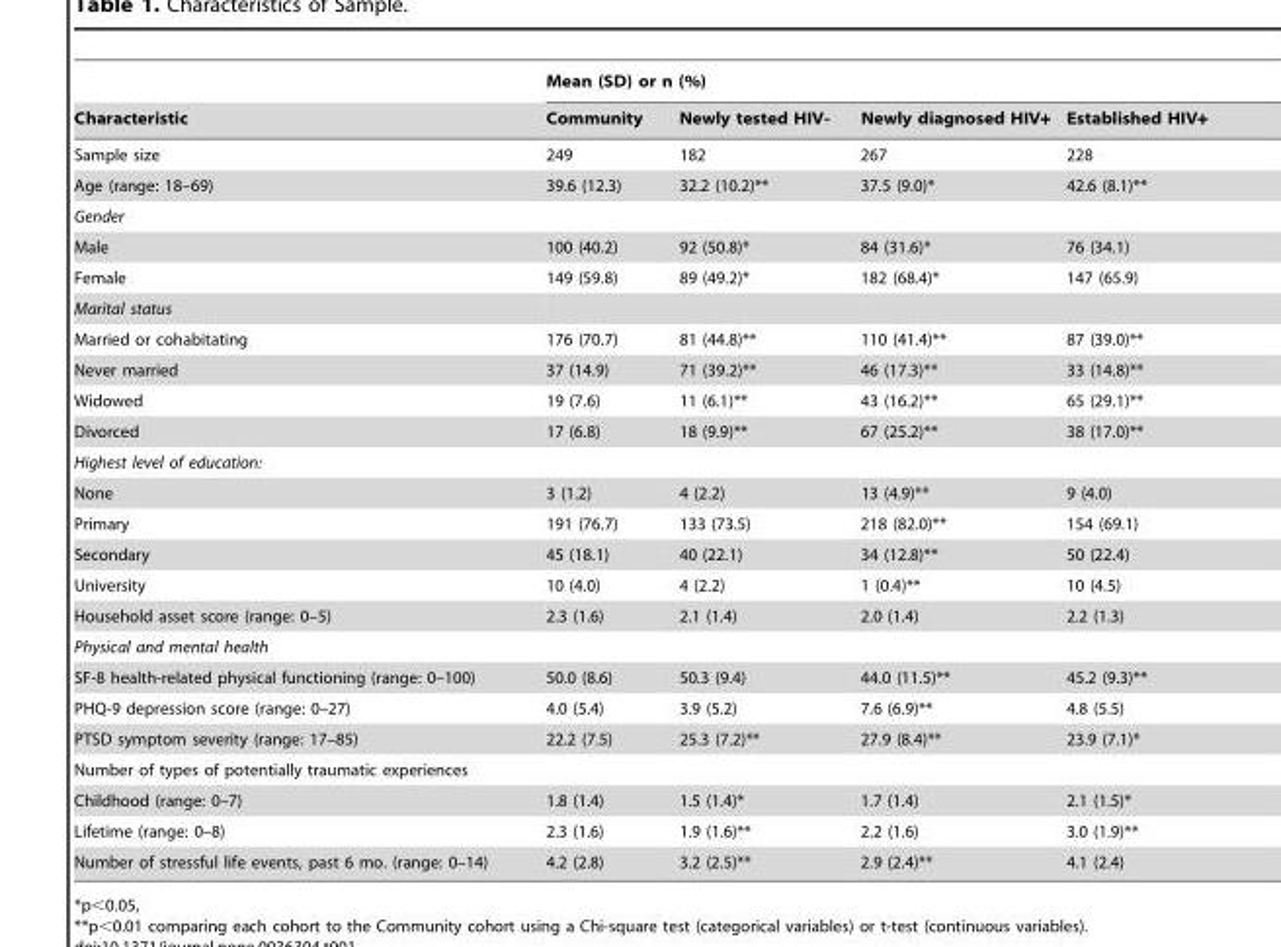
<table><thead><tr><td rowspan="2">Characteristic</td><td colspan="4">Mean (SD) or n (%)</td></tr><tr><td>Community</td><td>Newly tested HIV-</td><td>Newly diagnosed HIV+</td><td>Established HIV+</td></tr></thead><tbody><tr><td>Sample size</td><td>249</td><td>182</td><td>267</td><td>228</td></tr><tr><td>Age (range: 18–69)</td><td>39.6 (12.3)</td><td>32.2 (10.2)**</td><td>37.5 (9.0)*</td><td>42.6 (8.1)**</td></tr><tr><td colspan="5">Gender</td></tr><tr><td>Male</td><td>100 (40.2)</td><td>92 (50.8)*</td><td>84 (31.6)*</td><td>76 (34.1)</td></tr><tr><td>Female</td><td>149 (59.8)</td><td>89 (49.2)*</td><td>182 (68.4)*</td><td>147 (65.9)</td></tr><tr><td colspan="5">Marital status</td></tr><tr><td>Married or cohabitating</td><td>176 (70.7)</td><td>81 (44.8)**</td><td>110 (41.4)**</td><td>87 (39.0)**</td></tr><tr><td>Never married</td><td>37 (14.9)</td><td>71 (39.2)**</td><td>46 (17.3)**</td><td>33 (14.8)**</td></tr><tr><td>Widowed</td><td>19 (7.6)</td><td>11 (6.1)**</td><td>43 (16.2)**</td><td>65 (29.1)**</td></tr><tr><td>Divorced</td><td>17 (6.8)</td><td>18 (9.9)**</td><td>67 (25.2)**</td><td>38 (17.0)**</td></tr><tr><td colspan="5">Highest level of education:</td></tr><tr><td>None</td><td>3 (1.2)</td><td>4 (2.2)</td><td>13 (4.9)**</td><td>9 (4.0)</td></tr><tr><td>Primary</td><td>191 (76.7)</td><td>133 (73.5)</td><td>218 (82.0)**</td><td>154 (69.1)</td></tr><tr><td>Secondary</td><td>45 (18.1)</td><td>40 (22.1)</td><td>34 (12.8)**</td><td>50 (22.4)</td></tr><tr><td>University</td><td>10 (4.0)</td><td>4 (2.2)</td><td>1 (0.4)**</td><td>10 (4.5)</td></tr><tr><td>Household asset score (range: 0–5)</td><td>2.3 (1.6)</td><td>2.1 (1.4)</td><td>2.0 (1.4)</td><td>2.2 (1.3)</td></tr><tr><td colspan="5">Physical and mental health</td></tr><tr><td>SF-8 health-related physical functioning (range: 0–100)</td><td>50.0 (8.6)</td><td>50.3 (9.4)</td><td>44.0 (11.5)**</td><td>45.2 (9.3)**</td></tr><tr><td>PHQ-9 depression score (range: 0–27)</td><td>4.0 (5.4)</td><td>3.9 (5.2)</td><td>7.6 (6.9)**</td><td>4.8 (5.5)</td></tr><tr><td>PTSD symptom severity (range: 17–85)</td><td>22.2 (7.5)</td><td>25.3 (7.2)**</td><td>27.9 (8.4)**</td><td>23.9 (7.1)*</td></tr><tr><td colspan="5">Number of types of potentially traumatic experiences</td></tr><tr><td>Childhood (range: 0–7)</td><td>1.8 (1.4)</td><td>1.5 (1.4)*</td><td>1.7 (1.4)</td><td>2.1 (1.5)*</td></tr><tr><td>Lifetime (range: 0–8)</td><td>2.3 (1.6)</td><td>1.9 (1.6)**</td><td>2.2 (1.6)</td><td>3.0 (1.9)**</td></tr><tr><td>Number of stressful life events, past 6 mo. (range: 0–14)</td><td>4.2 (2.8)</td><td>3.2 (2.5)**</td><td>2.9 (2.4)**</td><td>4.1 (2.4)</td></tr></tbody></table>